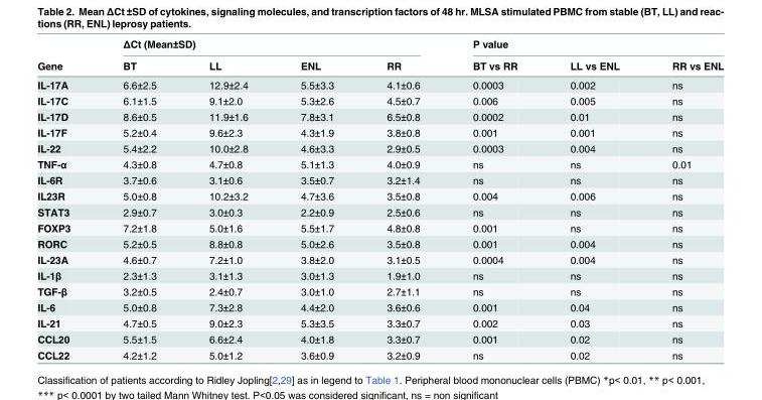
<table><thead><tr><td rowspan="2">Gene</td><td colspan="4">ΔCt (Mean±SD)</td><td colspan="3">P value</td></tr><tr><td>BT</td><td>LL</td><td>ENL</td><td>RR</td><td>BT vs RR</td><td>LL vs ENL</td><td>RR vs ENL</td></tr></thead><tbody><tr><td>IL-17A</td><td>6.6±2.5</td><td>12.9±2.4</td><td>5.5±3.3</td><td>4.1±0.6</td><td>0.0003</td><td>0.002</td><td>ns</td></tr><tr><td>IL-17C</td><td>6.1±1.5</td><td>9.1±2.0</td><td>5.3±2.6</td><td>4.5±0.7</td><td>0.006</td><td>0.005</td><td>ns</td></tr><tr><td>IL-17D</td><td>8.6±0.5</td><td>11.9±1.6</td><td>7.8±3.1</td><td>6.5±0.8</td><td>0.0002</td><td>0.01</td><td>ns</td></tr><tr><td>IL-17F</td><td>5.2±0.4</td><td>9.6±2.3</td><td>4.3±1.9</td><td>3.8±0.8</td><td>0.001</td><td>0.001</td><td>ns</td></tr><tr><td>IL-22</td><td>5.4±2.2</td><td>10.0±2.8</td><td>4.6±3.3</td><td>2.9±0.5</td><td>0.0003</td><td>0.004</td><td>ns</td></tr><tr><td>TNF-α</td><td>4.3±0.8</td><td>4.7±0.8</td><td>5.1±1.3</td><td>4.0±0.9</td><td>ns</td><td>ns</td><td>0.01</td></tr><tr><td>IL-6R</td><td>3.7±0.6</td><td>3.1±0.6</td><td>3.5±0.7</td><td>3.2±1.4</td><td>ns</td><td>ns</td><td>ns</td></tr><tr><td>IL23R</td><td>5.0±0.8</td><td>10.2±3.2</td><td>4.7±3.6</td><td>3.5±0.8</td><td>0.004</td><td>0.006</td><td>ns</td></tr><tr><td>STAT3</td><td>2.9±0.7</td><td>3.0±0.3</td><td>2.2±0.9</td><td>2.5±0.6</td><td>ns</td><td>ns</td><td>ns</td></tr><tr><td>FOXP3</td><td>7.2±1.8</td><td>5.0±1.6</td><td>5.5±1.7</td><td>4.8±0.8</td><td>0.001</td><td>ns</td><td>ns</td></tr><tr><td>RORC</td><td>5.2±0.5</td><td>8.8±0.8</td><td>5.0±2.6</td><td>3.5±0.8</td><td>0.001</td><td>0.004</td><td>ns</td></tr><tr><td>IL-23A</td><td>4.6±0.7</td><td>7.2±1.0</td><td>3.8±2.0</td><td>3.1±0.5</td><td>0.0004</td><td>0.004</td><td>ns</td></tr><tr><td>IL-1β</td><td>2.3±1.3</td><td>3.1±1.3</td><td>3.0±1.3</td><td>1.9±1.0</td><td>ns</td><td>ns</td><td>ns</td></tr><tr><td>TGF-β</td><td>3.2±0.5</td><td>2.4±0.7</td><td>3.0±1.0</td><td>2.7±1.1</td><td>ns</td><td>ns</td><td>ns</td></tr><tr><td>IL-6</td><td>5.0±0.8</td><td>7.3±2.8</td><td>4.4±2.0</td><td>3.6±0.6</td><td>0.001</td><td>0.04</td><td>ns</td></tr><tr><td>IL-21</td><td>4.7±0.5</td><td>9.0±2.3</td><td>5.3±3.5</td><td>3.3±0.7</td><td>0.002</td><td>0.03</td><td>ns</td></tr><tr><td>CCL20</td><td>5.5±1.5</td><td>6.6±2.4</td><td>4.0±1.8</td><td>3.3±0.7</td><td>0.001</td><td>0.02</td><td>ns</td></tr><tr><td>CCL22</td><td>4.2±1.2</td><td>5.0±1.2</td><td>3.6±0.9</td><td>3.2±0.9</td><td>ns</td><td>0.02</td><td>ns</td></tr></tbody></table>